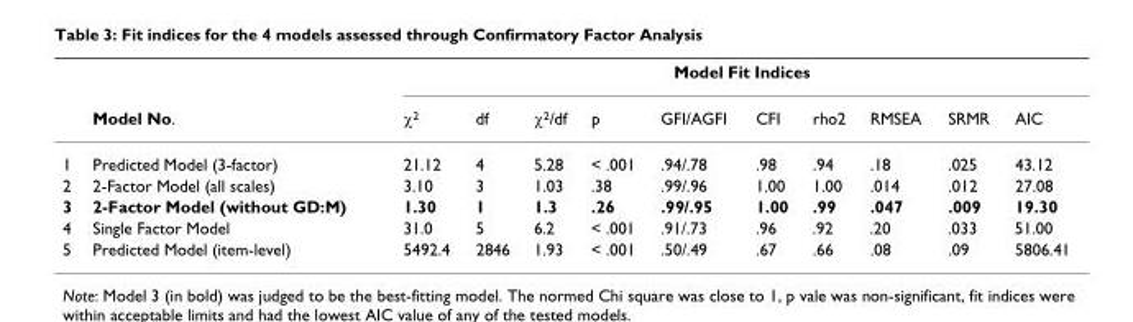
<table><thead><tr><td rowspan="2"></td><td rowspan="2">Model No.</td><td colspan="10">Model Fit Indices</td></tr><tr><td>χ<sup>2</sup></td><td>df</td><td>χ<sup>2</sup>/df</td><td>p</td><td>GFI/AGFI</td><td>CFI</td><td>rho2</td><td>RMSEA</td><td>SRMR</td><td>AIC</td></tr></thead><tbody><tr><td>1</td><td>Predicted Model (3-factor)</td><td>21.12</td><td>4</td><td>5.28</td><td>&lt; .001</td><td>.94/.78</td><td>.98</td><td>.94</td><td>.18</td><td>.025</td><td>43.12</td></tr><tr><td>2</td><td>2-Factor Model (all scales)</td><td>3.10</td><td>3</td><td>1.03</td><td>.38</td><td>.99/.96</td><td>1.00</td><td>1.00</td><td>.014</td><td>.012</td><td>27.08</td></tr><tr><td>3</td><td>2-Factor Model (without GD:M)</td><td>1.30</td><td>1</td><td>1.3</td><td>.26</td><td>.99/.95</td><td>1.00</td><td>.99</td><td>.047</td><td>.009</td><td>19.30</td></tr><tr><td>4</td><td>Single Factor Model</td><td>31.0</td><td>5</td><td>6.2</td><td>&lt; .001</td><td>.91/.73</td><td>.96</td><td>.92</td><td>.20</td><td>.033</td><td>51.00</td></tr><tr><td>5</td><td>Predicted Model (item-level)</td><td>5492.4</td><td>2846</td><td>1.93</td><td>&lt; .001</td><td>.50/.49</td><td>.67</td><td>.66</td><td>.08</td><td>.09</td><td>5806.41</td></tr></tbody></table>